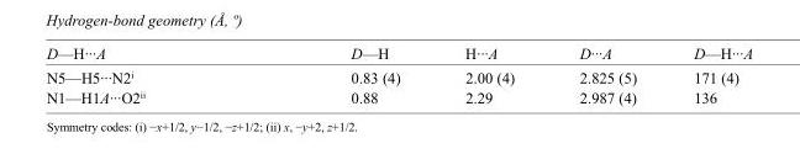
<table><tbody><tr><td>D—H···A</td><td>D—H</td><td>H···A</td><td>D···A</td><td>D—H···A</td></tr><tr><td>N5—H5···N2<sup>i</sup></td><td>0.83 (4)</td><td>2.00 (4)</td><td>2.825 (5)</td><td>171 (4)</td></tr><tr><td>N1—H1A···O2<sup>ii</sup></td><td>0.88</td><td>2.29</td><td>2.987 (4)</td><td>136</td></tr></tbody></table>